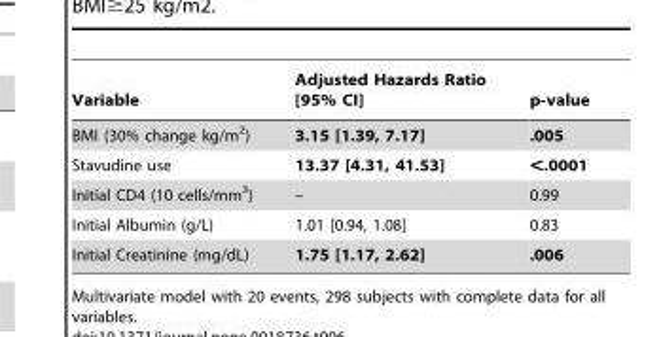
<table><thead><tr><td>Variable</td><td>Adjusted Hazards Ratio [95% CI]</td><td>p-value</td></tr></thead><tbody><tr><td>BMI (30% change kg/m<sup>2</sup>)</td><td>3.15 [1.39, 7.17]</td><td>.005</td></tr><tr><td>Stavudine use</td><td>13.37 [4.31, 41.53]</td><td>&lt;.0001</td></tr><tr><td>Initial CD4 (10 cells/mm<sup>3</sup>)</td><td>–</td><td>0.99</td></tr><tr><td>Initial Albumin (g/L)</td><td>1.01 [0.94, 1.08]</td><td>0.83</td></tr><tr><td>Initial Creatinine (mg/dL)</td><td>1.75 [1.17, 2.62]</td><td>.006</td></tr></tbody></table>